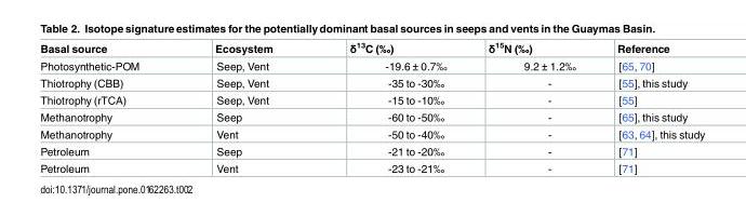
<table><thead><tr><td>Basal source</td><td>Ecosystem</td><td>δ<sup>13</sup>C (‰)</td><td>δ<sup>15</sup>N (‰)</td><td>Reference</td></tr></thead><tbody><tr><td>Photosynthetic-POM</td><td>Seep, Vent</td><td>-19.6 ± 0.7‰</td><td>9.2 ± 1.2‰</td><td>[65, 70]</td></tr><tr><td>Thiotrophy (CBB)</td><td>Seep, Vent</td><td>-35 to -30‰</td><td>-</td><td>[55], this study</td></tr><tr><td>Thiotrophy (rTCA)</td><td>Seep, Vent</td><td>-15 to -10‰</td><td>-</td><td>[55]</td></tr><tr><td>Methanotrophy</td><td>Seep</td><td>-60 to -50‰</td><td>-</td><td>[65], this study</td></tr><tr><td>Methanotrophy</td><td>Vent</td><td>-50 to -40‰</td><td>-</td><td>[63, 64], this study</td></tr><tr><td>Petroleum</td><td>Seep</td><td>-21 to -20‰</td><td>-</td><td>[71]</td></tr><tr><td>Petroleum</td><td>Vent</td><td>-23 to -21‰</td><td>-</td><td>[71]</td></tr></tbody></table>